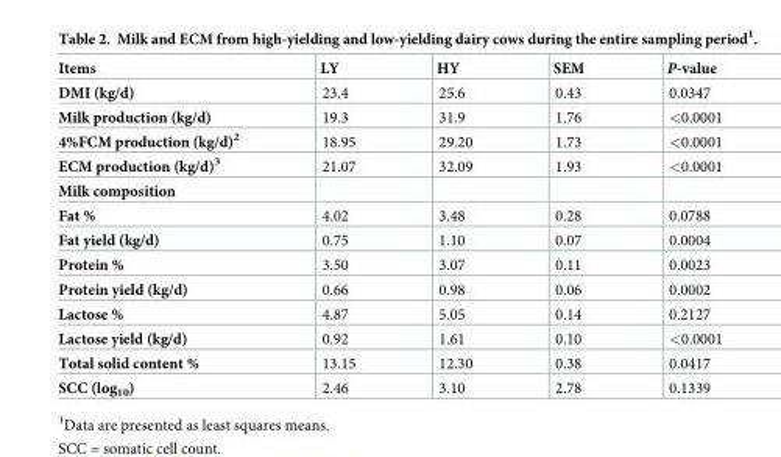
<table><thead><tr><td>Items</td><td>LY</td><td>HY</td><td>SEM</td><td>P-value</td></tr></thead><tbody><tr><td>DMI (kg/d)</td><td>23.4</td><td>25.6</td><td>0.43</td><td>0.0347</td></tr><tr><td>Milk production (kg/d)</td><td>19.3</td><td>31.9</td><td>1.76</td><td>&lt;0.0001</td></tr><tr><td>4%FCM production (kg/d)<sup>2</sup></td><td>18.95</td><td>29.20</td><td>1.73</td><td>&lt;0.0001</td></tr><tr><td>ECM production (kg/d)<sup>3</sup></td><td>21.07</td><td>32.09</td><td>1.93</td><td>&lt;0.0001</td></tr><tr><td colspan="5">Milk composition</td></tr><tr><td>Fat %</td><td>4.02</td><td>3.48</td><td>0.28</td><td>0.0788</td></tr><tr><td>Fat yield (kg/d)</td><td>0.75</td><td>1.10</td><td>0.07</td><td>0.0004</td></tr><tr><td>Protein %</td><td>3.50</td><td>3.07</td><td>0.11</td><td>0.0023</td></tr><tr><td>Protein yield (kg/d)</td><td>0.66</td><td>0.98</td><td>0.06</td><td>0.0002</td></tr><tr><td>Lactose %</td><td>4.87</td><td>5.05</td><td>0.14</td><td>0.2127</td></tr><tr><td>Lactose yield (kg/d)</td><td>0.92</td><td>1.61</td><td>0.10</td><td>&lt;0.0001</td></tr><tr><td>Total solid content %</td><td>13.15</td><td>12.30</td><td>0.38</td><td>0.0417</td></tr><tr><td>SCC (log<sub>10</sub>)</td><td>2.46</td><td>3.10</td><td>2.78</td><td>0.1339</td></tr></tbody></table>